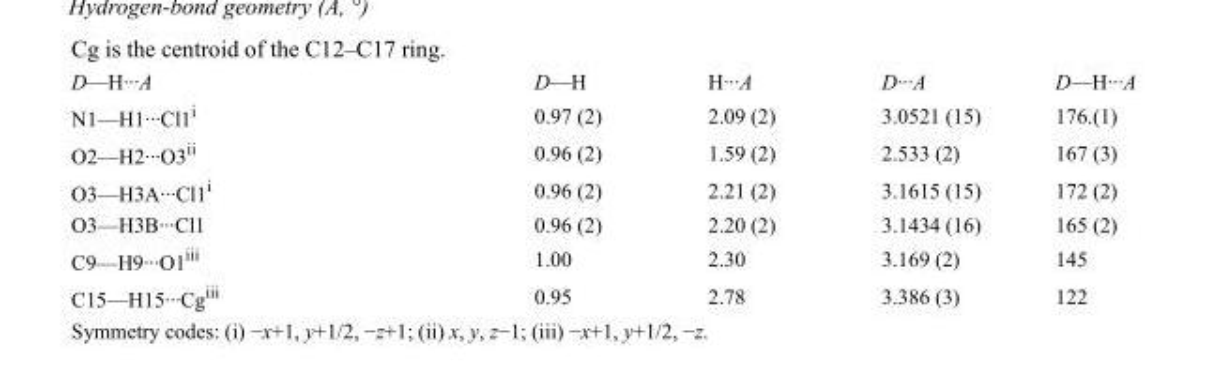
<table><tbody><tr><td>D—H···A</td><td>D—H</td><td>H···A</td><td>D···A</td><td>D—H···A</td></tr><tr><td>N1—H1···Cl1<sup>i</sup></td><td>0.97 (2)</td><td>2.09 (2)</td><td>3.0521 (15)</td><td>176.(1)</td></tr><tr><td>O2—H2···O3<sup>ii</sup></td><td>0.96 (2)</td><td>1.59 (2)</td><td>2.533 (2)</td><td>167 (3)</td></tr><tr><td>O3—H3A···Cl1<sup>i</sup></td><td>0.96 (2)</td><td>2.21 (2)</td><td>3.1615 (15)</td><td>172 (2)</td></tr><tr><td>O3—H3B···Cl1</td><td>0.96 (2)</td><td>2.20 (2)</td><td>3.1434 (16)</td><td>165 (2)</td></tr><tr><td>C9—H9···O1<sup>iii</sup></td><td>1.00</td><td>2.30</td><td>3.169 (2)</td><td>145</td></tr><tr><td>C15—H15···Cg<sup>iii</sup></td><td>0.95</td><td>2.78</td><td>3.386 (3)</td><td>122</td></tr></tbody></table>